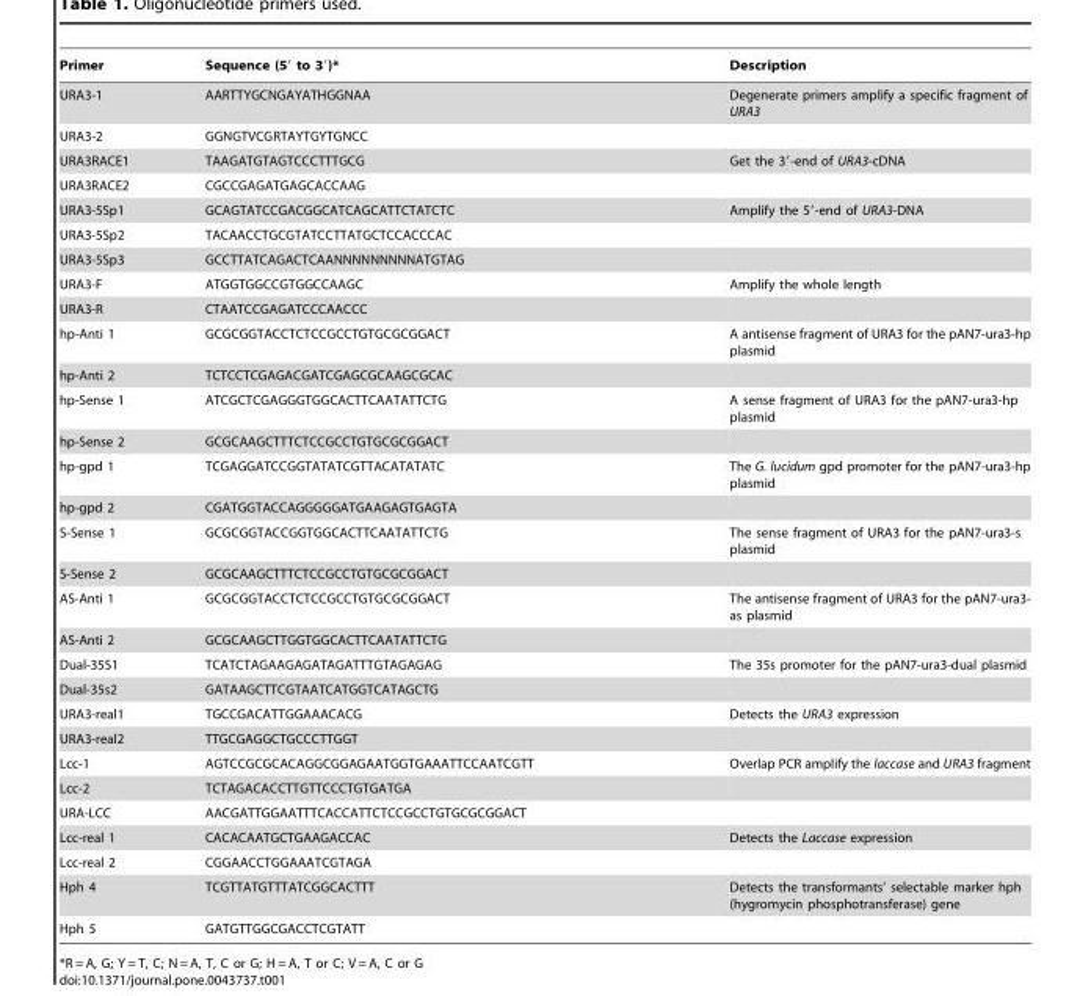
<table><thead><tr><td>Primer</td><td>Sequence (5′ to 3′)*</td><td>Description</td></tr></thead><tbody><tr><td>URA3-1</td><td>AARTTYGCNGAYATHGGNAA</td><td>Degenerate primers amplify a specific fragment of URA3</td></tr><tr><td>URA3-2</td><td>GGNGTVCGRTAYTGYTGNCC</td><td></td></tr><tr><td>URA3RACE1</td><td>TAAGATGTAGTCCCTTTGCG</td><td>Get the 3′-end of URA3-cDNA</td></tr><tr><td>URA3RACE2</td><td>CGCCGAGATGAGCACCAAG</td><td></td></tr><tr><td>URA3-5Sp1</td><td>GCAGTATCCGACGGCATCAGCATTCTATCTC</td><td>Amplify the 5′-end of URA3-DNA</td></tr><tr><td>URA3-5Sp2</td><td>TACAACCTGCGTATCCTTATGCTCCACCCAC</td><td></td></tr><tr><td>URA3-5Sp3</td><td>GCCTTATCAGACTCAANNNNNNNNNATGTAG</td><td></td></tr><tr><td>URA3-F</td><td>ATGGTGGCCGTGGCCAAGC</td><td>Amplify the whole length</td></tr><tr><td>URA3-R</td><td>CTAATCCGAGATCCCAACCC</td><td></td></tr><tr><td>hp-Anti 1</td><td>GCGCGGTACCTCTCCGCCTGTGCGCGGACT</td><td>A antisense fragment of URA3 for the pAN7-ura3-hp plasmid</td></tr><tr><td>hp-Anti 2</td><td>TCTCCTCGAGACGATCGAGCGCAAGCGCAC</td><td></td></tr><tr><td>hp-Sense 1</td><td>ATCGCTCGAGGGTGGCACTTCAATATTCTG</td><td>A sense fragment of URA3 for the pAN7-ura3-hp plasmid</td></tr><tr><td>hp-Sense 2</td><td>GCGCAAGCTTTCTCCGCCTGTGCGCGGACT</td><td></td></tr><tr><td>hp-gpd 1</td><td>TCGAGGATCCGGTATATCGTTACATATATC</td><td>The G. lucidum gpd promoter for the pAN7-ura3-hp plasmid</td></tr><tr><td>hp-gpd 2</td><td>CGATGGTACCAGGGGGATGAAGAGTGAGTA</td><td></td></tr><tr><td>S-Sense 1</td><td>GCGCGGTACCGGTGGCACTTCAATATTCTG</td><td>The sense fragment of URA3 for the pAN7-ura3-s plasmid</td></tr><tr><td>S-Sense 2</td><td>GCGCAAGCTTTCTCCGCCTGTGCGCGGACT</td><td></td></tr><tr><td>AS-Anti 1</td><td>GCGCGGTACCTCTCCGCCTGTGCGCGGACT</td><td>The antisense fragment of URA3 for the pAN7-ura3- as plasmid</td></tr><tr><td>AS-Anti 2</td><td>GCGCAAGCTTGGTGGCACTTCAATATTCTG</td><td></td></tr><tr><td>Dual-35S1</td><td>TCATCTAGAAGAGATAGATTTGTAGAGAG</td><td>The 35s promoter for the pAN7-ura3-dual plasmid</td></tr><tr><td>Dual-35s2</td><td>GATAAGCTTCGTAATCATGGTCATAGCTG</td><td></td></tr><tr><td>URA3-real1</td><td>TGCCGACATTGGAAACACG</td><td>Detects the URA3 expression</td></tr><tr><td>URA3-real2</td><td>TTGCGAGGCTGCCCTTGGT</td><td></td></tr><tr><td>Lcc-1</td><td>AGTCCGCGCACAGGCGGAGAATGGTGAAATTCCAATCGTT</td><td>Overlap PCR amplify the laccase and URA3 fragment</td></tr><tr><td>Lcc-2</td><td>TCTAGACACCTTGTTCCCTGTGATGA</td><td></td></tr><tr><td>URA-LCC</td><td>AACGATTGGAATTTCACCATTCTCCGCCTGTGCGCGGACT</td><td></td></tr><tr><td>Lcc-real 1</td><td>CACACAATGCTGAAGACCAC</td><td>Detects the Laccase expression</td></tr><tr><td>Lcc-real 2</td><td>CGGAACCTGGAAATCGTAGA</td><td></td></tr><tr><td>Hph 4</td><td>TCGTTATGTTTATCGGCACTTT</td><td>Detects the transformants’ selectable marker hph (hygromycin phosphotransferase) gene</td></tr><tr><td>Hph 5</td><td>GATGTTGGCGACCTCGTATT</td><td></td></tr></tbody></table>